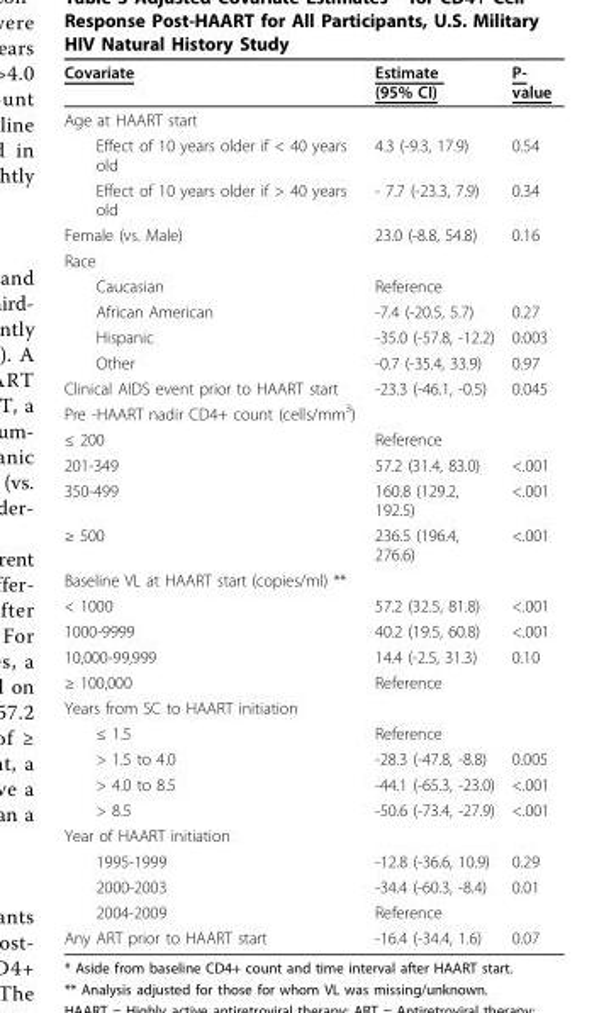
<table><thead><tr><td>Covariate</td><td>Estimate (95% CI)</td><td>P- value</td></tr></thead><tbody><tr><td colspan="3">Age at HAART start</td></tr><tr><td>Effect of 10 years older if &lt; 40 years old</td><td>4.3 (-9.3, 17.9)</td><td>0.54</td></tr><tr><td>Effect of 10 years older if &gt; 40 years old</td><td>- 7.7 (-23.3, 7.9)</td><td>0.34</td></tr><tr><td>Female (vs. Male)</td><td>23.0 (-8.8, 54.8)</td><td>0.16</td></tr><tr><td colspan="3">Race</td></tr><tr><td>Caucasian</td><td>Reference</td><td></td></tr><tr><td>African American</td><td>-7.4 (-20.5, 5.7)</td><td>0.27</td></tr><tr><td>Hispanic</td><td>-35.0 (-57.8, -12.2)</td><td>0.003</td></tr><tr><td>Other</td><td>-0.7 (-35.4, 33.9)</td><td>0.97</td></tr><tr><td>Clinical AIDS event prior to HAART start</td><td>-23.3 (-46.1, -0.5)</td><td>0.045</td></tr><tr><td colspan="3">Pre -HAART nadir CD4+ count (cells/mm<sup>3</sup>)</td></tr><tr><td>≤ 200</td><td>Reference</td><td></td></tr><tr><td>201-349</td><td>57.2 (31.4, 83.0)</td><td>&lt;.001</td></tr><tr><td>350-499</td><td>160.8 (129.2, 192.5)</td><td>&lt;.001</td></tr><tr><td>≥ 500</td><td>236.5 (196.4, 276.6)</td><td>&lt;.001</td></tr><tr><td colspan="3">Baseline VL at HAART start (copies/ml) **</td></tr><tr><td>&lt; 1000</td><td>57.2 (32.5, 81.8)</td><td>&lt;.001</td></tr><tr><td>1000-9999</td><td>40.2 (19.5, 60.8)</td><td>&lt;.001</td></tr><tr><td>10,000-99,999</td><td>14.4 (-2.5, 31.3)</td><td>0.10</td></tr><tr><td>≥ 100,000</td><td>Reference</td><td></td></tr><tr><td colspan="3">Years from SC to HAART initiation</td></tr><tr><td>≤ 1.5</td><td>Reference</td><td></td></tr><tr><td>&gt; 1.5 to 4.0</td><td>-28.3 (-47.8, -8.8)</td><td>0.005</td></tr><tr><td>&gt; 4.0 to 8.5</td><td>-44.1 (-65.3, -23.0)</td><td>&lt;.001</td></tr><tr><td>&gt; 8.5</td><td>-50.6 (-73.4, -27.9)</td><td>&lt;.001</td></tr><tr><td colspan="3">Year of HAART initiation</td></tr><tr><td>1995-1999</td><td>-12.8 (-36.6, 10.9)</td><td>0.29</td></tr><tr><td>2000-2003</td><td>-34.4 (-60.3, -8.4)</td><td>0.01</td></tr><tr><td>2004-2009</td><td>Reference</td><td></td></tr><tr><td>Any ART prior to HAART start</td><td>-16.4 (-34.4, 1.6)</td><td>0.07</td></tr></tbody></table>